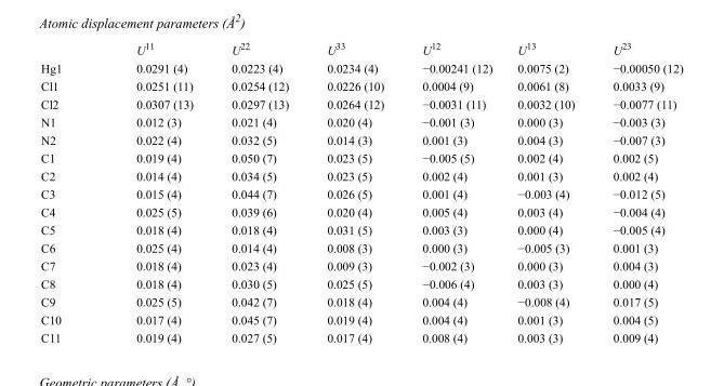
<table><thead><tr><td></td><td>U<sup>11</sup></td><td>U<sup>22</sup></td><td>U<sup>33</sup></td><td>U<sup>12</sup></td><td>U<sup>13</sup></td><td>U<sup>23</sup></td></tr></thead><tbody><tr><td>Hg1</td><td>0.0291 (4)</td><td>0.0223 (4)</td><td>0.0234 (4)</td><td>−0.00241 (12)</td><td>0.0075 (2)</td><td>−0.00050 (12)</td></tr><tr><td>Cl1</td><td>0.0251 (11)</td><td>0.0254 (12)</td><td>0.0226 (10)</td><td>0.0004 (9)</td><td>0.0061 (8)</td><td>0.0033 (9)</td></tr><tr><td>Cl2</td><td>0.0307 (13)</td><td>0.0297 (13)</td><td>0.0264 (12)</td><td>−0.0031 (11)</td><td>0.0032 (10)</td><td>−0.0077 (11)</td></tr><tr><td>N1</td><td>0.012 (3)</td><td>0.021 (4)</td><td>0.020 (4)</td><td>−0.001 (3)</td><td>0.000 (3)</td><td>−0.003 (3)</td></tr><tr><td>N2</td><td>0.022 (4)</td><td>0.032 (5)</td><td>0.014 (3)</td><td>0.001 (3)</td><td>0.004 (3)</td><td>−0.007 (3)</td></tr><tr><td>C1</td><td>0.019 (4)</td><td>0.050 (7)</td><td>0.023 (5)</td><td>−0.005 (5)</td><td>0.002 (4)</td><td>0.002 (5)</td></tr><tr><td>C2</td><td>0.014 (4)</td><td>0.034 (5)</td><td>0.023 (5)</td><td>0.002 (4)</td><td>0.001 (3)</td><td>0.002 (4)</td></tr><tr><td>C3</td><td>0.015 (4)</td><td>0.044 (7)</td><td>0.026 (5)</td><td>0.001 (4)</td><td>−0.003 (4)</td><td>−0.012 (5)</td></tr><tr><td>C4</td><td>0.025 (5)</td><td>0.039 (6)</td><td>0.020 (4)</td><td>0.005 (4)</td><td>0.003 (4)</td><td>−0.004 (4)</td></tr><tr><td>C5</td><td>0.018 (4)</td><td>0.018 (4)</td><td>0.031 (5)</td><td>0.003 (3)</td><td>0.000 (4)</td><td>−0.005 (4)</td></tr><tr><td>C6</td><td>0.025 (4)</td><td>0.014 (4)</td><td>0.008 (3)</td><td>0.000 (3)</td><td>−0.005 (3)</td><td>0.001 (3)</td></tr><tr><td>C7</td><td>0.018 (4)</td><td>0.023 (4)</td><td>0.009 (3)</td><td>−0.002 (3)</td><td>0.000 (3)</td><td>0.004 (3)</td></tr><tr><td>C8</td><td>0.018 (4)</td><td>0.030 (5)</td><td>0.025 (5)</td><td>−0.006 (4)</td><td>0.003 (3)</td><td>0.000 (4)</td></tr><tr><td>C9</td><td>0.025 (5)</td><td>0.042 (7)</td><td>0.018 (4)</td><td>0.004 (4)</td><td>−0.008 (4)</td><td>0.017 (5)</td></tr><tr><td>C10</td><td>0.017 (4)</td><td>0.045 (7)</td><td>0.019 (4)</td><td>0.004 (4)</td><td>0.001 (3)</td><td>0.004 (5)</td></tr><tr><td>C11</td><td>0.019 (4)</td><td>0.027 (5)</td><td>0.017 (4)</td><td>0.008 (4)</td><td>0.003 (3)</td><td>0.009 (4)</td></tr></tbody></table>